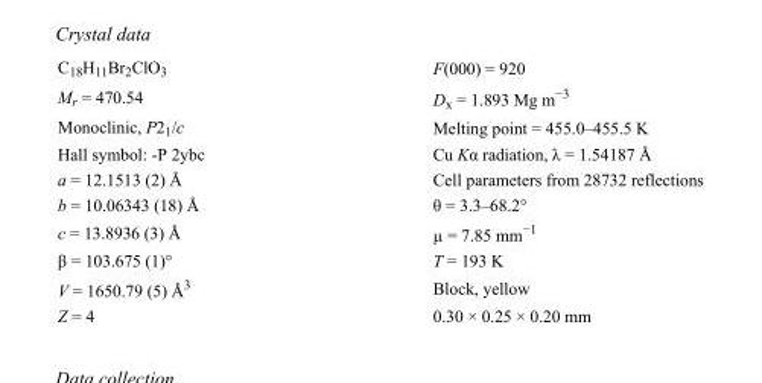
<table><tbody><tr><td>C<sub>18</sub>H<sub>11</sub>Br<sub>2</sub>ClO<sub>3</sub></td><td>F(000) = 920</td></tr><tr><td>M<sub>r</sub> = 470.54</td><td>D<sub>x</sub> = 1.893 Mg m<sup>−3</sup></td></tr><tr><td>Monoclinic, P2<sub>1</sub>/c</td><td>Melting point = 455.0–455.5 K</td></tr><tr><td>Hall symbol: -P 2ybc</td><td>Cu Kα radiation, λ = 1.54187 Å</td></tr><tr><td>a = 12.1513 (2) Å</td><td>Cell parameters from 28732 reflections</td></tr><tr><td>b = 10.06343 (18) Å</td><td>θ = 3.3–68.2°</td></tr><tr><td>c = 13.8936 (3) Å</td><td>µ = 7.85 mm<sup>−1</sup></td></tr><tr><td>β = 103.675 (1)°</td><td>T = 193 K</td></tr><tr><td>V = 1650.79 (5) Å<sup>3</sup></td><td>Block, yellow</td></tr><tr><td>Z = 4</td><td>0.30 × 0.25 × 0.20 mm</td></tr></tbody></table>